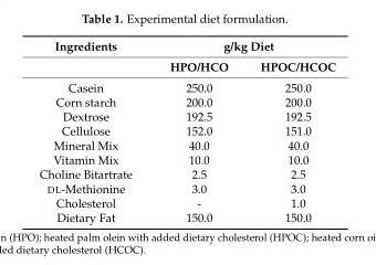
<table><thead><tr><td rowspan="2">Ingredients</td><td colspan="2">g/kg Diet</td></tr><tr><td>HPO/HCO</td><td>HPOC/HCOC</td></tr></thead><tbody><tr><td>Casein</td><td>250.0</td><td>250.0</td></tr><tr><td>Corn starch</td><td>200.0</td><td>200.0</td></tr><tr><td>Dextrose</td><td>192.5</td><td>192.5</td></tr><tr><td>Cellulose</td><td>152.0</td><td>151.0</td></tr><tr><td>Mineral Mix</td><td>40.0</td><td>40.0</td></tr><tr><td>Vitamin Mix</td><td>10.0</td><td>10.0</td></tr><tr><td>Choline Bitartrate</td><td>2.5</td><td>2.5</td></tr><tr><td>DL-Methionine</td><td>3.0</td><td>3.0</td></tr><tr><td>Cholesterol</td><td>-</td><td>1.0</td></tr><tr><td>Dietary Fat</td><td>150.0</td><td>150.0</td></tr></tbody></table>